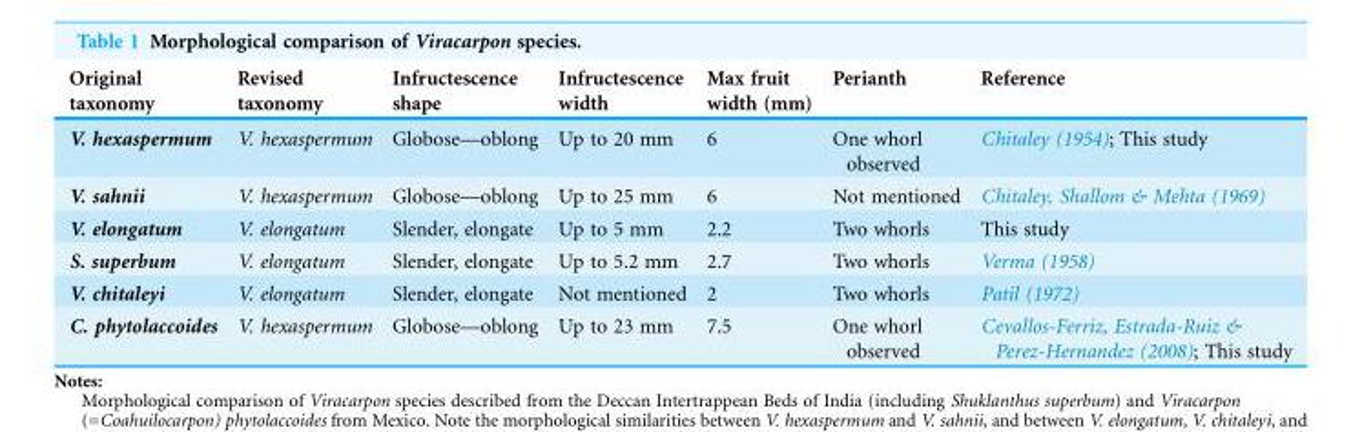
<table><thead><tr><td>Original taxonomy</td><td>Revised taxonomy</td><td>Infructescence shape</td><td>Infructescence width</td><td>Max fruit width (mm)</td><td>Perianth</td><td>Reference</td></tr></thead><tbody><tr><td>V. hexaspermum</td><td>V. hexaspermum</td><td>Globose—oblong</td><td>Up to 20 mm</td><td>6</td><td>One whorl observed</td><td>Chitaley (1954); This study</td></tr><tr><td>V. sahnii</td><td>V. hexaspermum</td><td>Globose—oblong</td><td>Up to 25 mm</td><td>6</td><td>Not mentioned</td><td>Chitaley, Shallom &amp; Mehta (1969)</td></tr><tr><td>V. elongatum</td><td>V. elongatum</td><td>Slender, elongate</td><td>Up to 5 mm</td><td>2.2</td><td>Two whorls</td><td>This study</td></tr><tr><td>S. superbum</td><td>V. elongatum</td><td>Slender, elongate</td><td>Up to 5.2 mm</td><td>2.7</td><td>Two whorls</td><td>Verma (1958)</td></tr><tr><td>V. chitaleyi</td><td>V. elongatum</td><td>Slender, elongate</td><td>Not mentioned</td><td>2</td><td>Two whorls</td><td>Patil (1972)</td></tr><tr><td>C. phytolaccoides</td><td>V. hexaspermum</td><td>Globose—oblong</td><td>Up to 23 mm</td><td>7.5</td><td>One whorl observed</td><td>Cevallos-Ferriz, Estrada-Ruiz &amp; Perez-Hernandez (2008); This study</td></tr></tbody></table>